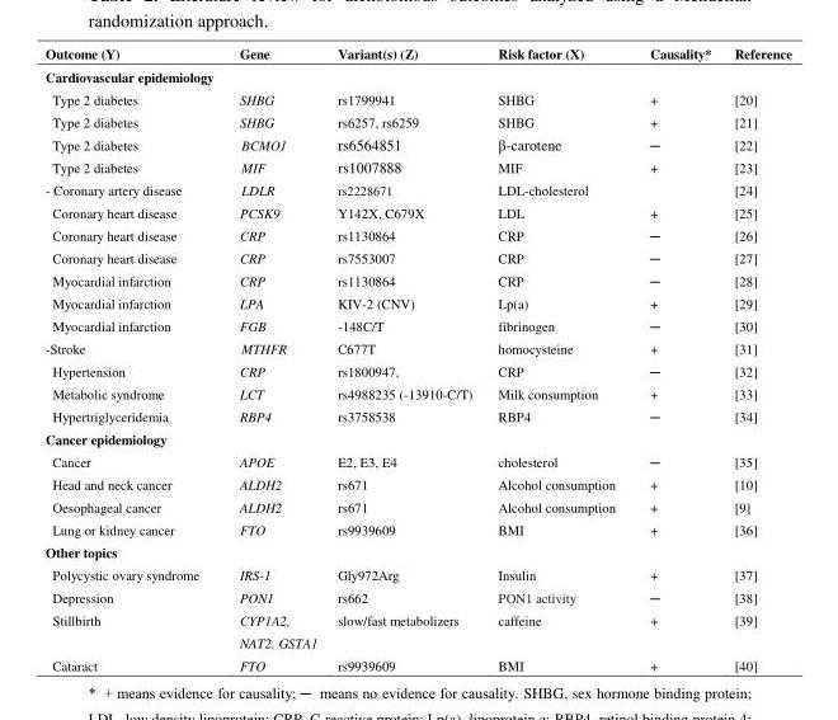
<table><thead><tr><td>Outcome (Y)</td><td>Gene</td><td>Variant(s) (Z)</td><td>Risk factor (X)</td><td>Causality*</td><td>Reference</td></tr></thead><tbody><tr><td colspan="6">Cardiovascular epidemiology</td></tr><tr><td>Type 2 diabetes</td><td>SHBG</td><td>rs1799941</td><td>SHBG</td><td>+</td><td>[20]</td></tr><tr><td>Type 2 diabetes</td><td>SHBG</td><td>rs6257, rs6259</td><td>SHBG</td><td>+</td><td>[21]</td></tr><tr><td>Type 2 diabetes</td><td>BCMO1</td><td>rs6564851</td><td>β-carotene</td><td>─</td><td>[22]</td></tr><tr><td>Type 2 diabetes</td><td>MIF</td><td>rs1007888</td><td>MIF</td><td>+</td><td>[23]</td></tr><tr><td>- Coronary artery disease</td><td>LDLR</td><td>rs2228671</td><td>LDL-cholesterol</td><td></td><td>[24]</td></tr><tr><td>Coronary heart disease</td><td>PCSK9</td><td>Y142X, C679X</td><td>LDL</td><td>+</td><td>[25]</td></tr><tr><td>Coronary heart disease</td><td>CRP</td><td>rs1130864</td><td>CRP</td><td>─</td><td>[26]</td></tr><tr><td>Coronary heart disease</td><td>CRP</td><td>rs7553007</td><td>CRP</td><td>─</td><td>[27]</td></tr><tr><td>Myocardial infarction</td><td>CRP</td><td>rs1130864</td><td>CRP</td><td>─</td><td>[28]</td></tr><tr><td>Myocardial infarction</td><td>LPA</td><td>KIV-2 (CNV)</td><td>Lp(a)</td><td>+</td><td>[29]</td></tr><tr><td>Myocardial infarction</td><td>FGB</td><td>-148C/T</td><td>fibrinogen</td><td>─</td><td>[30]</td></tr><tr><td>-Stroke</td><td>MTHFR</td><td>C677T</td><td>homocysteine</td><td>+</td><td>[31]</td></tr><tr><td>Hypertension</td><td>CRP</td><td>rs1800947,</td><td>CRP</td><td>─</td><td>[32]</td></tr><tr><td>Metabolic syndrome</td><td>LCT</td><td>rs4988235 (-13910-C/T)</td><td>Milk consumption</td><td>+</td><td>[33]</td></tr><tr><td>Hypertriglyceridemia</td><td>RBP4</td><td>rs3758538</td><td>RBP4</td><td>─</td><td>[34]</td></tr><tr><td colspan="6">Cancer epidemiology</td></tr><tr><td>Cancer</td><td>APOE</td><td>E2, E3, E4</td><td>cholesterol</td><td>─</td><td>[35]</td></tr><tr><td>Head and neck cancer</td><td>ALDH2</td><td>rs671</td><td>Alcohol consumption</td><td>+</td><td>[10]</td></tr><tr><td>Oesophageal cancer</td><td>ALDH2</td><td>rs671</td><td>Alcohol consumption</td><td>+</td><td>[9]</td></tr><tr><td>Lung or kidney cancer</td><td>FTO</td><td>rs9939609</td><td>BMI</td><td>+</td><td>[36]</td></tr><tr><td colspan="6">Other topics</td></tr><tr><td>Polycystic ovary syndrome</td><td>IRS-1</td><td>Gly972Arg</td><td>Insulin</td><td>+</td><td>[37]</td></tr><tr><td>Depression</td><td>PON1</td><td>rs662</td><td>PON1 activity</td><td>─</td><td>[38]</td></tr><tr><td>Stillbirth</td><td>CYP1A2, NAT2, GSTA1</td><td>slow/fast metabolizers</td><td>caffeine</td><td>+</td><td>[39]</td></tr><tr><td>Cataract</td><td>FTO</td><td>rs9939609</td><td>BMI</td><td>+</td><td>[40]</td></tr></tbody></table>